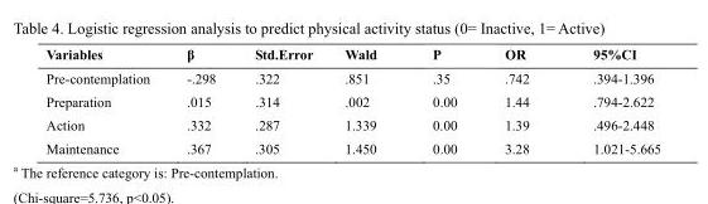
<table><thead><tr><td>Variables</td><td>β</td><td>Std.Error</td><td>Wald</td><td>P</td><td>OR</td><td>95%CI</td></tr></thead><tbody><tr><td>Pre-contemplation</td><td>-.298</td><td>.322</td><td>.851</td><td>.35</td><td>.742</td><td>.394-1.396</td></tr><tr><td>Preparation</td><td>.015</td><td>.314</td><td>.002</td><td>0.00</td><td>1.44</td><td>.794-2.622</td></tr><tr><td>Action</td><td>.332</td><td>.287</td><td>1.339</td><td>0.00</td><td>1.39</td><td>.496-2.448</td></tr><tr><td>Maintenance</td><td>.367</td><td>.305</td><td>1.450</td><td>0.00</td><td>3.28</td><td>1.021-5.665</td></tr></tbody></table>